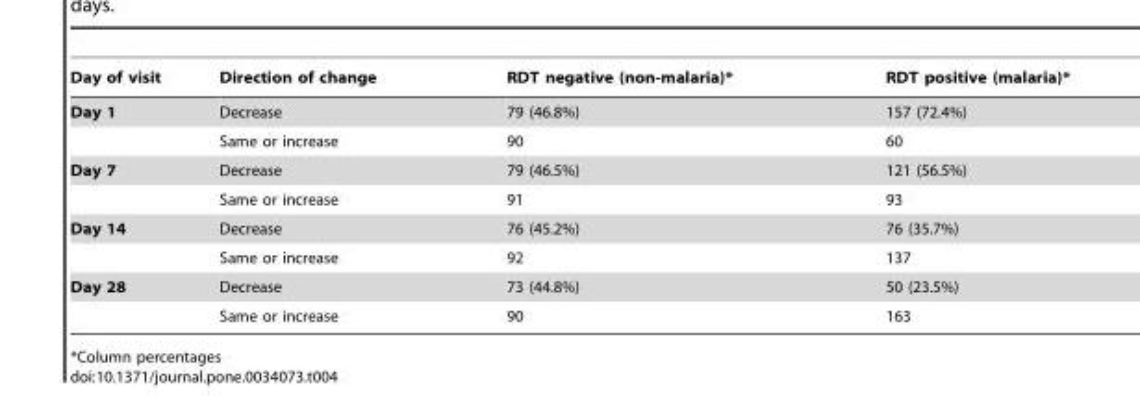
<table><thead><tr><td>Day of visit</td><td>Direction of change</td><td>RDT negative (non-malaria)*</td><td>RDT positive (malaria)*</td></tr></thead><tbody><tr><td rowspan="2">Day 1</td><td>Decrease</td><td>79 (46.8%)</td><td>157 (72.4%)</td></tr><tr><td>Same or increase</td><td>90</td><td>60</td></tr><tr><td rowspan="2">Day 7</td><td>Decrease</td><td>79 (46.5%)</td><td>121 (56.5%)</td></tr><tr><td>Same or increase</td><td>91</td><td>93</td></tr><tr><td rowspan="2">Day 14</td><td>Decrease</td><td>76 (45.2%)</td><td>76 (35.7%)</td></tr><tr><td>Same or increase</td><td>92</td><td>137</td></tr><tr><td rowspan="2">Day 28</td><td>Decrease</td><td>73 (44.8%)</td><td>50 (23.5%)</td></tr><tr><td>Same or increase</td><td>90</td><td>163</td></tr></tbody></table>